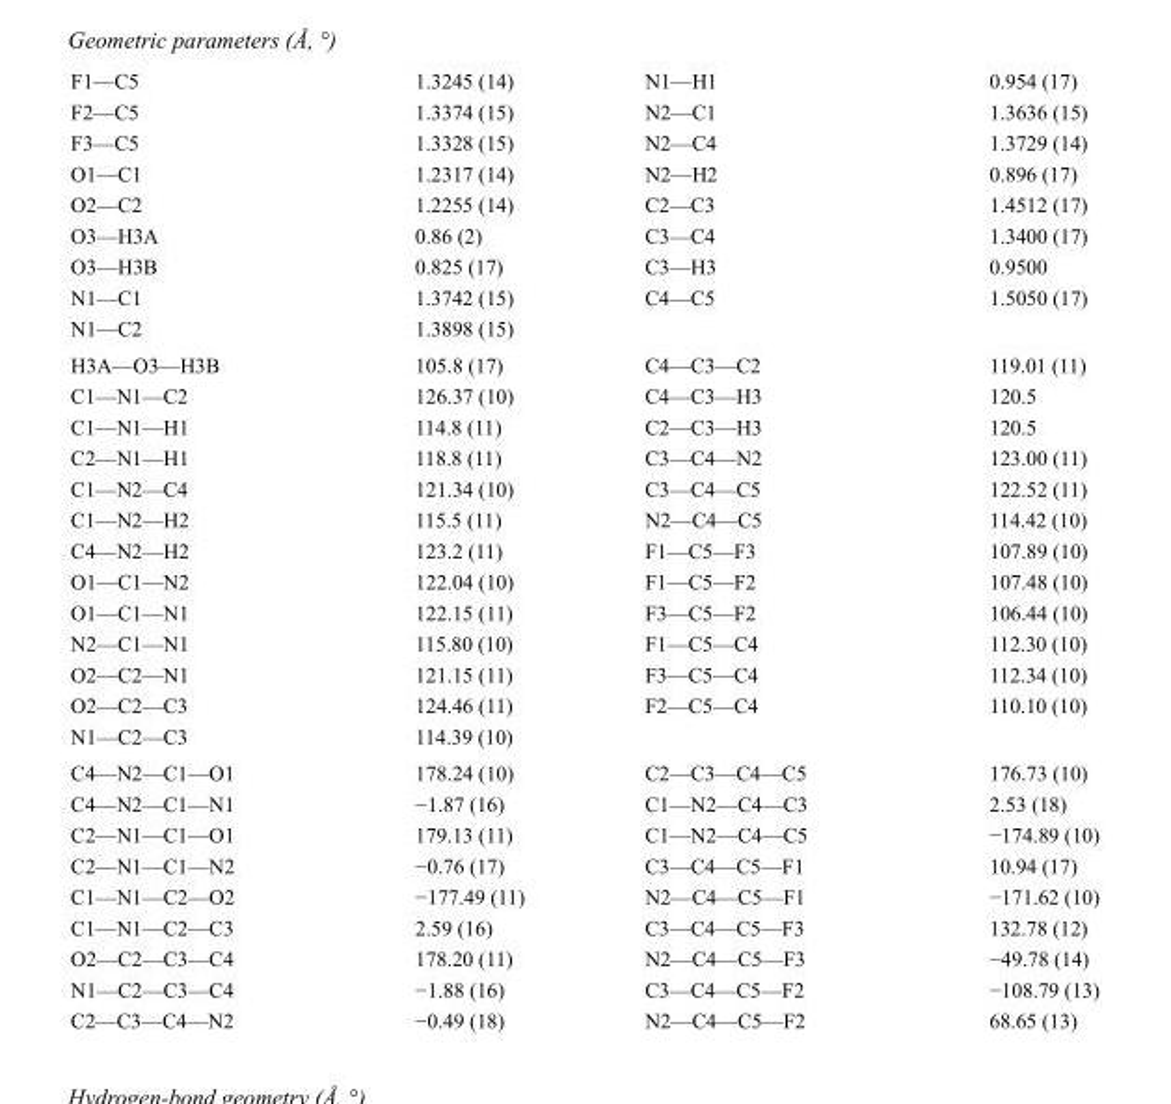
<table><tbody><tr><td>F1—C5</td><td>1.3245 (14)</td><td>N1—H1</td><td>0.954 (17)</td></tr><tr><td>F2—C5</td><td>1.3374 (15)</td><td>N2—C1</td><td>1.3636 (15)</td></tr><tr><td>F3—C5</td><td>1.3328 (15)</td><td>N2—C4</td><td>1.3729 (14)</td></tr><tr><td>O1—C1</td><td>1.2317 (14)</td><td>N2—H2</td><td>0.896 (17)</td></tr><tr><td>O2—C2</td><td>1.2255 (14)</td><td>C2—C3</td><td>1.4512 (17)</td></tr><tr><td>O3—H3A</td><td>0.86 (2)</td><td>C3—C4</td><td>1.3400 (17)</td></tr><tr><td>O3—H3B</td><td>0.825 (17)</td><td>C3—H3</td><td>0.9500</td></tr><tr><td>N1—C1</td><td>1.3742 (15)</td><td>C4—C5</td><td>1.5050 (17)</td></tr><tr><td>N1—C2</td><td>1.3898 (15)</td><td></td><td></td></tr><tr><td>H3A—O3—H3B</td><td>105.8 (17)</td><td>C4—C3—C2</td><td>119.01 (11)</td></tr><tr><td>C1—N1—C2</td><td>126.37 (10)</td><td>C4—C3—H3</td><td>120.5</td></tr><tr><td>C1—N1—H1</td><td>114.8 (11)</td><td>C2—C3—H3</td><td>120.5</td></tr><tr><td>C2—N1—H1</td><td>118.8 (11)</td><td>C3—C4—N2</td><td>123.00 (11)</td></tr><tr><td>C1—N2—C4</td><td>121.34 (10)</td><td>C3—C4—C5</td><td>122.52 (11)</td></tr><tr><td>C1—N2—H2</td><td>115.5 (11)</td><td>N2—C4—C5</td><td>114.42 (10)</td></tr><tr><td>C4—N2—H2</td><td>123.2 (11)</td><td>F1—C5—F3</td><td>107.89 (10)</td></tr><tr><td>O1—C1—N2</td><td>122.04 (10)</td><td>F1—C5—F2</td><td>107.48 (10)</td></tr><tr><td>O1—C1—N1</td><td>122.15 (11)</td><td>F3—C5—F2</td><td>106.44 (10)</td></tr><tr><td>N2—C1—N1</td><td>115.80 (10)</td><td>F1—C5—C4</td><td>112.30 (10)</td></tr><tr><td>O2—C2—N1</td><td>121.15 (11)</td><td>F3—C5—C4</td><td>112.34 (10)</td></tr><tr><td>O2—C2—C3</td><td>124.46 (11)</td><td>F2—C5—C4</td><td>110.10 (10)</td></tr><tr><td>N1—C2—C3</td><td>114.39 (10)</td><td></td><td></td></tr><tr><td>C4—N2—C1—O1</td><td>178.24 (10)</td><td>C2—C3—C4—C5</td><td>176.73 (10)</td></tr><tr><td>C4—N2—C1—N1</td><td>−1.87 (16)</td><td>C1—N2—C4—C3</td><td>2.53 (18)</td></tr><tr><td>C2—N1—C1—O1</td><td>179.13 (11)</td><td>C1—N2—C4—C5</td><td>−174.89 (10)</td></tr><tr><td>C2—N1—C1—N2</td><td>−0.76 (17)</td><td>C3—C4—C5—F1</td><td>10.94 (17)</td></tr><tr><td>C1—N1—C2—O2</td><td>−177.49 (11)</td><td>N2—C4—C5—F1</td><td>−171.62 (10)</td></tr><tr><td>C1—N1—C2—C3</td><td>2.59 (16)</td><td>C3—C4—C5—F3</td><td>132.78 (12)</td></tr><tr><td>O2—C2—C3—C4</td><td>178.20 (11)</td><td>N2—C4—C5—F3</td><td>−49.78 (14)</td></tr><tr><td>N1—C2—C3—C4</td><td>−1.88 (16)</td><td>C3—C4—C5—F2</td><td>−108.79 (13)</td></tr><tr><td>C2—C3—C4—N2</td><td>−0.49 (18)</td><td>N2—C4—C5—F2</td><td>68.65 (13)</td></tr></tbody></table>